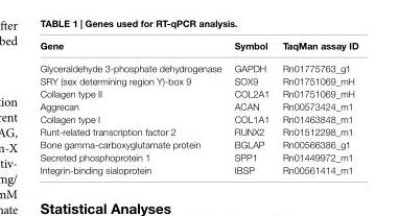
<table><thead><tr><td>gene</td><td>symbol</td><td>TaqMan assay iD</td></tr></thead><tbody><tr><td>Glyceraldehyde 3-phosphate dehydrogenase</td><td>GAPDH</td><td>Rn01775763_g1</td></tr><tr><td>SRY (sex determining region Y)-box 9</td><td>SOX9</td><td>Rn01751069_mH</td></tr><tr><td>Collagen type II</td><td>COL2A1</td><td>Rn01751069_mH</td></tr><tr><td>Aggrecan</td><td>ACAN</td><td>Rn00573424_m1</td></tr><tr><td>Collagen type I</td><td>COL1A1</td><td>Rn01463848_m1</td></tr><tr><td>Runt-related transcription factor 2</td><td>RUNX2</td><td>Rn01512298_m1</td></tr><tr><td>Bone gamma-carboxyglutamate protein</td><td>BGLAP</td><td>Rn00566386_g1</td></tr><tr><td>Secreted phosphoprotein 1</td><td>SPP1</td><td>Rn01449972_m1</td></tr><tr><td>Integrin-binding sialoprotein</td><td>IBSP</td><td>Rn00561414_m1</td></tr></tbody></table>